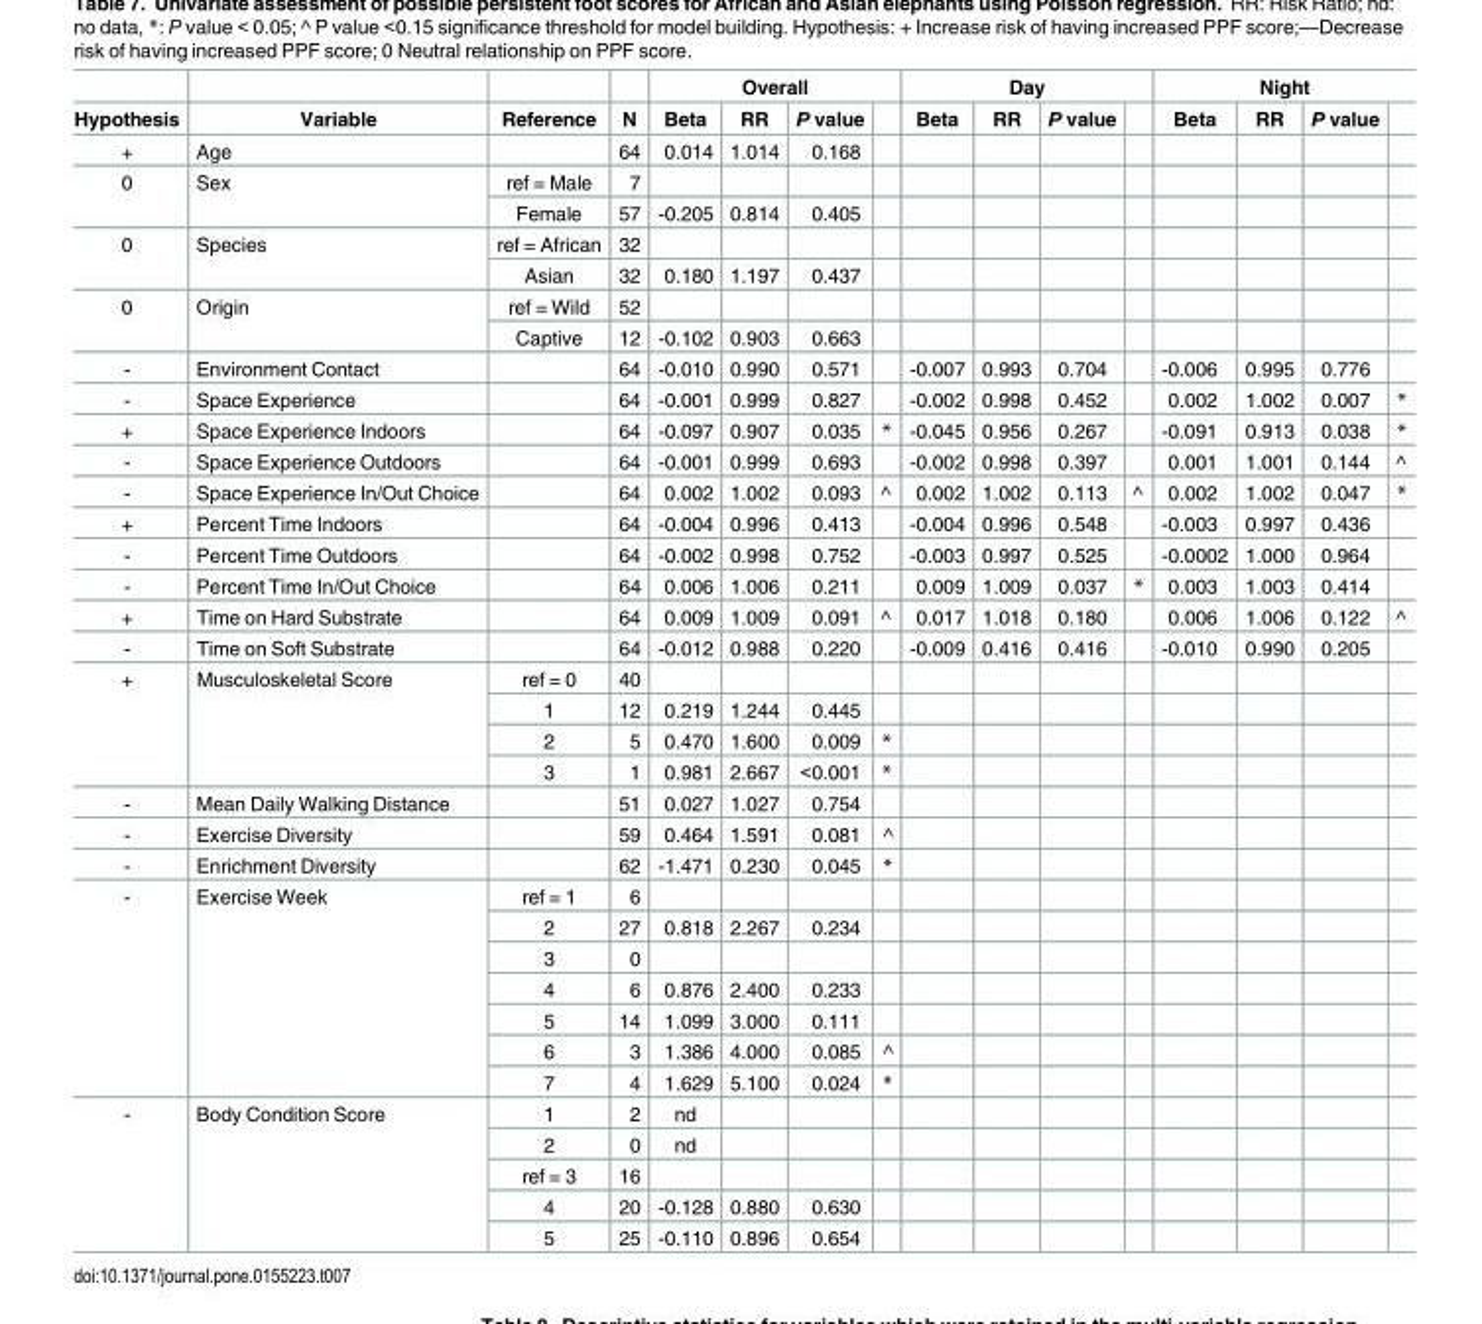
<table><thead><tr><td rowspan="2">Hypothesis</td><td rowspan="2">Variable</td><td rowspan="2">Reference</td><td rowspan="2">N</td><td colspan="4">Overall</td><td colspan="4">Day</td><td colspan="4">Night</td></tr><tr><td>Beta</td><td>RR</td><td>P value</td><td></td><td>Beta</td><td>RR</td><td>P value</td><td></td><td>Beta</td><td>RR</td><td>P value</td><td></td></tr></thead><tbody><tr><td>+</td><td>Age</td><td></td><td>64</td><td>0.014</td><td>1.014</td><td>0.168</td><td></td><td></td><td></td><td></td><td></td><td></td><td></td><td></td><td></td></tr><tr><td rowspan="2">0</td><td rowspan="2">Sex</td><td>ref = Male</td><td>7</td><td></td><td></td><td></td><td></td><td></td><td></td><td></td><td></td><td></td><td></td><td></td><td></td></tr><tr><td>Female</td><td>57</td><td>-0.205</td><td>0.814</td><td>0.405</td><td></td><td></td><td></td><td></td><td></td><td></td><td></td><td></td><td></td></tr><tr><td rowspan="2">0</td><td rowspan="2">Species</td><td>ref = African</td><td>32</td><td></td><td></td><td></td><td></td><td></td><td></td><td></td><td></td><td></td><td></td><td></td><td></td></tr><tr><td>Asian</td><td>32</td><td>0.180</td><td>1.197</td><td>0.437</td><td></td><td></td><td></td><td></td><td></td><td></td><td></td><td></td><td></td></tr><tr><td rowspan="2">0</td><td rowspan="2">Origin</td><td>ref = Wild</td><td>52</td><td></td><td></td><td></td><td></td><td></td><td></td><td></td><td></td><td></td><td></td><td></td><td></td></tr><tr><td>Captive</td><td>12</td><td>-0.102</td><td>0.903</td><td>0.663</td><td></td><td></td><td></td><td></td><td></td><td></td><td></td><td></td><td></td></tr><tr><td>-</td><td>Environment Contact</td><td></td><td>64</td><td>-0.010</td><td>0.990</td><td>0.571</td><td></td><td>-0.007</td><td>0.993</td><td>0.704</td><td></td><td>-0.006</td><td>0.995</td><td>0.776</td><td></td></tr><tr><td>-</td><td>Space Experience</td><td></td><td>64</td><td>-0.001</td><td>0.999</td><td>0.827</td><td></td><td>-0.002</td><td>0.998</td><td>0.452</td><td></td><td>0.002</td><td>1.002</td><td>0.007</td><td>*</td></tr><tr><td>+</td><td>Space Experience Indoors</td><td></td><td>64</td><td>-0.097</td><td>0.907</td><td>0.035</td><td>*</td><td>-0.045</td><td>0.956</td><td>0.267</td><td></td><td>-0.091</td><td>0.913</td><td>0.038</td><td>*</td></tr><tr><td>-</td><td>Space Experience Outdoors</td><td></td><td>64</td><td>-0.001</td><td>0.999</td><td>0.693</td><td></td><td>-0.002</td><td>0.998</td><td>0.397</td><td></td><td>0.001</td><td>1.001</td><td>0.144</td><td>^</td></tr><tr><td>-</td><td>Space Experience In/Out Choice</td><td></td><td>64</td><td>0.002</td><td>1.002</td><td>0.093</td><td>^</td><td>0.002</td><td>1.002</td><td>0.113</td><td>^</td><td>0.002</td><td>1.002</td><td>0.047</td><td>*</td></tr><tr><td>+</td><td>Percent Time Indoors</td><td></td><td>64</td><td>-0.004</td><td>0.996</td><td>0.413</td><td></td><td>-0.004</td><td>0.996</td><td>0.548</td><td></td><td>-0.003</td><td>0.997</td><td>0.436</td><td></td></tr><tr><td>-</td><td>Percent Time Outdoors</td><td></td><td>64</td><td>-0.002</td><td>0.998</td><td>0.752</td><td></td><td>-0.003</td><td>0.997</td><td>0.525</td><td></td><td>-0.0002</td><td>1.000</td><td>0.964</td><td></td></tr><tr><td>-</td><td>Percent Time In/Out Choice</td><td></td><td>64</td><td>0.006</td><td>1.006</td><td>0.211</td><td></td><td>0.009</td><td>1.009</td><td>0.037</td><td>*</td><td>0.003</td><td>1.003</td><td>0.414</td><td></td></tr><tr><td>+</td><td>Time on Hard Substrate</td><td></td><td>64</td><td>0.009</td><td>1.009</td><td>0.091</td><td>^</td><td>0.017</td><td>1.018</td><td>0.180</td><td></td><td>0.006</td><td>1.006</td><td>0.122</td><td>^</td></tr><tr><td>-</td><td>Time on Soft Substrate</td><td></td><td>64</td><td>-0.012</td><td>0.988</td><td>0.220</td><td></td><td>-0.009</td><td>0.416</td><td>0.416</td><td></td><td>-0.010</td><td>0.990</td><td>0.205</td><td></td></tr><tr><td rowspan="4">+</td><td rowspan="4">Musculoskeletal Score</td><td>ref = 0</td><td>40</td><td></td><td></td><td></td><td></td><td></td><td></td><td></td><td></td><td></td><td></td><td></td><td></td></tr><tr><td>1</td><td>12</td><td>0.219</td><td>1.244</td><td>0.445</td><td></td><td></td><td></td><td></td><td></td><td></td><td></td><td></td><td></td></tr><tr><td>2</td><td>5</td><td>0.470</td><td>1.600</td><td>0.009</td><td>*</td><td></td><td></td><td></td><td></td><td></td><td></td><td></td><td></td></tr><tr><td>3</td><td>1</td><td>0.981</td><td>2.667</td><td>&lt;0.001</td><td>*</td><td></td><td></td><td></td><td></td><td></td><td></td><td></td><td></td></tr><tr><td>-</td><td>Mean Daily Walking Distance</td><td></td><td>51</td><td>0.027</td><td>1.027</td><td>0.754</td><td></td><td></td><td></td><td></td><td></td><td></td><td></td><td></td><td></td></tr><tr><td>-</td><td>Exercise Diversity</td><td></td><td>59</td><td>0.464</td><td>1.591</td><td>0.081</td><td>^</td><td></td><td></td><td></td><td></td><td></td><td></td><td></td><td></td></tr><tr><td>-</td><td>Enrichment Diversity</td><td></td><td>62</td><td>-1.471</td><td>0.230</td><td>0.045</td><td>*</td><td></td><td></td><td></td><td></td><td></td><td></td><td></td><td></td></tr><tr><td rowspan="7">-</td><td rowspan="7">Exercise Week</td><td>ref = 1</td><td>6</td><td></td><td></td><td></td><td></td><td></td><td></td><td></td><td></td><td></td><td></td><td></td><td></td></tr><tr><td>2</td><td>27</td><td>0.818</td><td>2.267</td><td>0.234</td><td></td><td></td><td></td><td></td><td></td><td></td><td></td><td></td><td></td></tr><tr><td>3</td><td>0</td><td></td><td></td><td></td><td></td><td></td><td></td><td></td><td></td><td></td><td></td><td></td><td></td></tr><tr><td>4</td><td>6</td><td>0.876</td><td>2.400</td><td>0.233</td><td></td><td></td><td></td><td></td><td></td><td></td><td></td><td></td><td></td></tr><tr><td>5</td><td>14</td><td>1.099</td><td>3.000</td><td>0.111</td><td></td><td></td><td></td><td></td><td></td><td></td><td></td><td></td><td></td></tr><tr><td>6</td><td>3</td><td>1.386</td><td>4.000</td><td>0.085</td><td>^</td><td></td><td></td><td></td><td></td><td></td><td></td><td></td><td></td></tr><tr><td>7</td><td>4</td><td>1.629</td><td>5.100</td><td>0.024</td><td>*</td><td></td><td></td><td></td><td></td><td></td><td></td><td></td><td></td></tr><tr><td rowspan="5">-</td><td rowspan="5">Body Condition Score</td><td>1</td><td>2</td><td>nd</td><td></td><td></td><td></td><td></td><td></td><td></td><td></td><td></td><td></td><td></td><td></td></tr><tr><td>2</td><td>0</td><td>nd</td><td></td><td></td><td></td><td></td><td></td><td></td><td></td><td></td><td></td><td></td><td></td></tr><tr><td>ref = 3</td><td>16</td><td></td><td></td><td></td><td></td><td></td><td></td><td></td><td></td><td></td><td></td><td></td><td></td></tr><tr><td>4</td><td>20</td><td>-0.128</td><td>0.880</td><td>0.630</td><td></td><td></td><td></td><td></td><td></td><td></td><td></td><td></td><td></td></tr><tr><td>5</td><td>25</td><td>-0.110</td><td>0.896</td><td>0.654</td><td></td><td></td><td></td><td></td><td></td><td></td><td></td><td></td><td></td></tr></tbody></table>